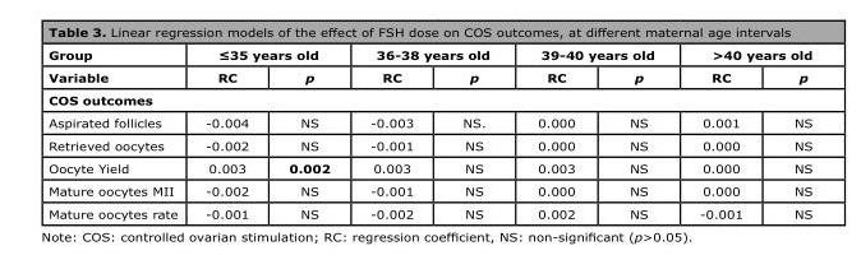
<table><thead><tr><td rowspan="2">Group Variable</td><td colspan="2">≤35 years old</td><td colspan="2">36-38 years old</td><td colspan="2">39-40 years old</td><td colspan="2">&gt;40 years old</td></tr><tr><td>RC</td><td>p</td><td>RC</td><td>p</td><td>RC</td><td>p</td><td>RC</td><td>p</td></tr></thead><tbody><tr><td colspan="9">COS outcomes</td></tr><tr><td>Aspirated follicles</td><td>-0.004</td><td>NS</td><td>-0.003</td><td>NS.</td><td>0.000</td><td>NS</td><td>0.001</td><td>NS</td></tr><tr><td>Retrieved oocytes</td><td>-0.002</td><td>NS</td><td>-0.001</td><td>NS</td><td>0.000</td><td>NS</td><td>0.000</td><td>NS</td></tr><tr><td>Oocyte Yield</td><td>0.003</td><td>0.002</td><td>0.003</td><td>NS</td><td>0.003</td><td>NS</td><td>0.000</td><td>NS</td></tr><tr><td>Mature oocytes MII</td><td>-0.002</td><td>NS</td><td>-0.001</td><td>NS</td><td>0.000</td><td>NS</td><td>0.000</td><td>NS</td></tr><tr><td>Mature oocytes rate</td><td>-0.001</td><td>NS</td><td>-0.002</td><td>NS</td><td>0.002</td><td>NS</td><td>-0.001</td><td>NS</td></tr></tbody></table>